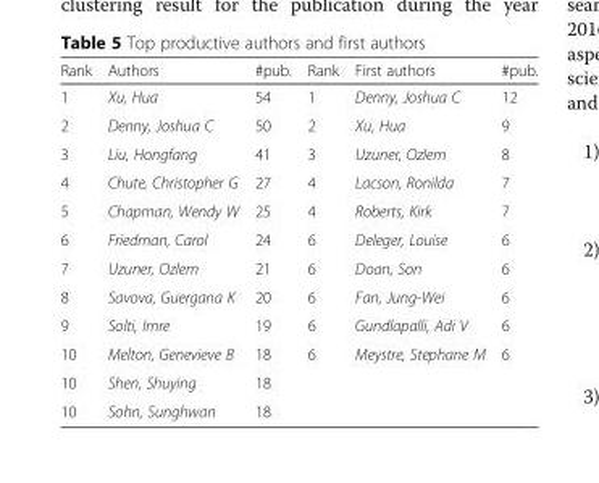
<table><thead><tr><td>Rank</td><td>Authors</td><td>#pub.</td><td>Rank</td><td>First authors</td><td>#pub.</td></tr></thead><tbody><tr><td>1</td><td>Xu, Hua</td><td>54</td><td>1</td><td>Denny, Joshua C</td><td>12</td></tr><tr><td>2</td><td>Denny, Joshua C</td><td>50</td><td>2</td><td>Xu, Hua</td><td>9</td></tr><tr><td>3</td><td>Liu, Hongfang</td><td>41</td><td>3</td><td>Uzuner, Ozlem</td><td>8</td></tr><tr><td>4</td><td>Chute, Christopher G</td><td>27</td><td>4</td><td>Lacson, Ronilda</td><td>7</td></tr><tr><td>5</td><td>Chapman, Wendy W</td><td>25</td><td>4</td><td>Roberts, Kirk</td><td>7</td></tr><tr><td>6</td><td>Friedman, Carol</td><td>24</td><td>6</td><td>Deleger, Louise</td><td>6</td></tr><tr><td>7</td><td>Uzuner, Ozlem</td><td>21</td><td>6</td><td>Doan, Son</td><td>6</td></tr><tr><td>8</td><td>Savova, Guergana K</td><td>20</td><td>6</td><td>Fan, Jung-Wei</td><td>6</td></tr><tr><td>9</td><td>Solti, Imre</td><td>19</td><td>6</td><td>Gundlapalli, Adi V</td><td>6</td></tr><tr><td>10</td><td>Melton, Genevieve B</td><td>18</td><td>6</td><td>Meystre, Stephane M</td><td>6</td></tr><tr><td>10</td><td>Shen, Shuying</td><td>18</td><td></td><td></td><td></td></tr><tr><td>10</td><td>Sohn, Sunghwan</td><td>18</td><td></td><td></td><td></td></tr></tbody></table>